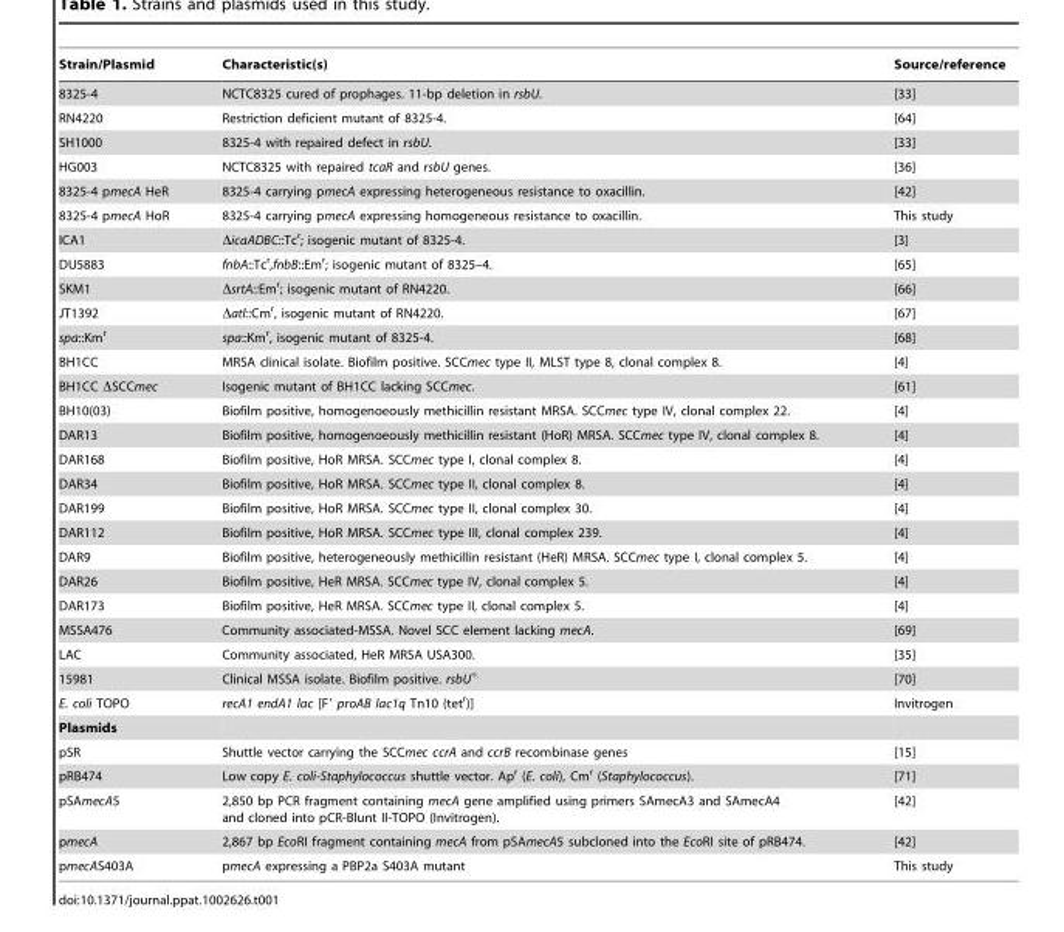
<table><thead><tr><td>Strain/Plasmid</td><td>Characteristic(s)</td><td>Source/reference</td></tr></thead><tbody><tr><td>8325-4</td><td>NCTC8325 cured of prophages. 11-bp deletion in rsbU.</td><td>[33]</td></tr><tr><td>RN4220</td><td>Restriction deficient mutant of 8325-4.</td><td>[64]</td></tr><tr><td>SH1000</td><td>8325-4 with repaired defect in rsbU.</td><td>[33]</td></tr><tr><td>HG003</td><td>NCTC8325 with repaired tcaR and rsbU genes.</td><td>[36]</td></tr><tr><td>8325-4 pmecA HeR</td><td>8325-4 carrying pmecA expressing heterogeneous resistance to oxacillin.</td><td>[42]</td></tr><tr><td>8325-4 pmecA HoR</td><td>8325-4 carrying pmecA expressing homogeneous resistance to oxacillin.</td><td>This study</td></tr><tr><td>ICA1</td><td>ΔicaADBC::Tc<sup>r</sup>; isogenic mutant of 8325-4.</td><td>[3]</td></tr><tr><td>DU5883</td><td>fnbA::Tc<sup>r</sup>,fnbB::Em<sup>r</sup>; isogenic mutant of 8325–4.</td><td>[65]</td></tr><tr><td>SKM1</td><td>ΔsrtA::Em<sup>r</sup>; isogenic mutant of RN4220.</td><td>[66]</td></tr><tr><td>JT1392</td><td>Δatl::Cm<sup>r</sup>, isogenic mutant of RN4220.</td><td>[67]</td></tr><tr><td>spa::Km<sup>r</sup></td><td>spa::Km<sup>r</sup>, isogenic mutant of 8325-4.</td><td>[68]</td></tr><tr><td>BH1CC</td><td>MRSA clinical isolate. Biofilm positive. SCCmec type II, MLST type 8, clonal complex 8.</td><td>[4]</td></tr><tr><td>BH1CC ΔSCCmec</td><td>Isogenic mutant of BH1CC lacking SCCmec.</td><td>[61]</td></tr><tr><td>BH10(03)</td><td>Biofilm positive, homogenoeously methicillin resistant MRSA. SCCmec type IV, clonal complex 22.</td><td>[4]</td></tr><tr><td>DAR13</td><td>Biofilm positive, homogenoeously methicillin resistant (HoR) MRSA. SCCmec type IV, clonal complex 8.</td><td>[4]</td></tr><tr><td>DAR168</td><td>Biofilm positive, HoR MRSA. SCCmec type I, clonal complex 8.</td><td>[4]</td></tr><tr><td>DAR34</td><td>Biofilm positive, HoR MRSA. SCCmec type II, clonal complex 8.</td><td>[4]</td></tr><tr><td>DAR199</td><td>Biofilm positive, HoR MRSA. SCCmec type II, clonal complex 30.</td><td>[4]</td></tr><tr><td>DAR112</td><td>Biofilm positive, HoR MRSA. SCCmec type III, clonal complex 239.</td><td>[4]</td></tr><tr><td>DAR9</td><td>Biofilm positive, heterogeneously methicillin resistant (HeR) MRSA. SCCmec type I, clonal complex 5.</td><td>[4]</td></tr><tr><td>DAR26</td><td>Biofilm positive, HeR MRSA. SCCmec type IV, clonal complex 5.</td><td>[4]</td></tr><tr><td>DAR173</td><td>Biofilm positive, HeR MRSA. SCCmec type II, clonal complex 5.</td><td>[4]</td></tr><tr><td>MSSA476</td><td>Community associated-MSSA. Novel SCC element lacking mecA.</td><td>[69]</td></tr><tr><td>LAC</td><td>Community associated, HeR MRSA USA300.</td><td>[35]</td></tr><tr><td>15981</td><td>Clinical MSSA isolate. Biofilm positive. rsbU<sup>+.</sup></td><td>[70]</td></tr><tr><td>E. coli TOPO</td><td>recA1 endA1 lac [F′ proAB lac1q Tn10 (tet<sup>r</sup>)]</td><td>Invitrogen</td></tr><tr><td colspan="3">Plasmids</td></tr><tr><td>pSR</td><td>Shuttle vector carrying the SCCmec ccrA and ccrB recombinase genes</td><td>[15]</td></tr><tr><td>pRB474</td><td>Low copy E. coli-Staphylococcus shuttle vector. Ap<sup>r</sup> (E. coli), Cm<sup>r</sup> (Staphylococcus).</td><td>[71]</td></tr><tr><td>pSAmecA5</td><td>2,850 bp PCR fragment containing mecA gene amplified using primers SAmecA3 and SAmecA4 and cloned into pCR-Blunt II-TOPO (Invitrogen).</td><td>[42]</td></tr><tr><td>pmecA</td><td>2,867 bp EcoRI fragment containing mecA from pSAmecA5 subcloned into the EcoRI site of pRB474.</td><td>[42]</td></tr><tr><td>pmecAS403A</td><td>pmecA expressing a PBP2a S403A mutant</td><td>This study</td></tr></tbody></table>